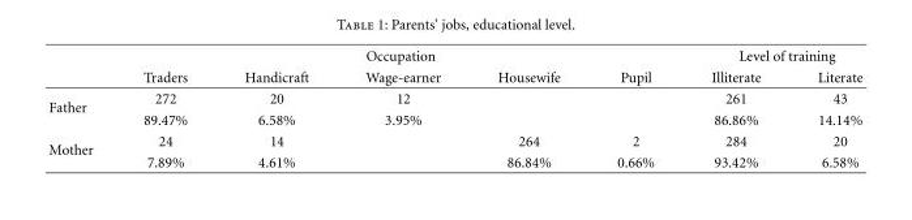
<table><thead><tr><td rowspan="2"></td><td colspan="5">Occupation</td><td colspan="2">Level of training</td></tr><tr><td>Traders</td><td>Handicraft</td><td>Wage-earner</td><td>Housewife</td><td>Pupil</td><td>Illiterate</td><td>Literate</td></tr></thead><tbody><tr><td rowspan="2">Father</td><td>272</td><td>20</td><td>12</td><td></td><td></td><td>261</td><td>43</td></tr><tr><td>89.47%</td><td>6.58%</td><td>3.95%</td><td></td><td></td><td>86.86%</td><td>14.14%</td></tr><tr><td rowspan="2">Mother</td><td>24</td><td>14</td><td></td><td>264</td><td>2</td><td>284</td><td>20</td></tr><tr><td>7.89%</td><td>4.61%</td><td></td><td>86.84%</td><td>0.66%</td><td>93.42%</td><td>6.58%</td></tr></tbody></table>